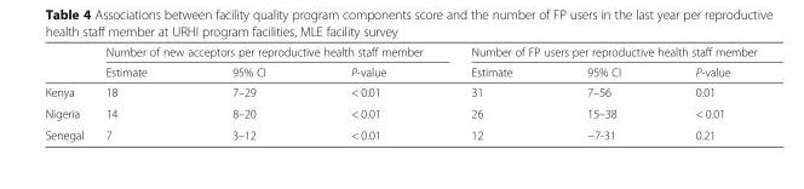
<table><thead><tr><td rowspan="2"></td><td colspan="3">Number of new acceptors per reproductive health staff member</td><td colspan="3">Number of FP users per reproductive health staff member</td></tr><tr><td>Estimate</td><td>95% CI</td><td>P-value</td><td>Estimate</td><td>95% CI</td><td>P-value</td></tr></thead><tbody><tr><td>Kenya</td><td>18</td><td>7–29</td><td>&lt; 0.01</td><td>31</td><td>7–56</td><td>0.01</td></tr><tr><td>Nigeria</td><td>14</td><td>8–20</td><td>&lt; 0.01</td><td>26</td><td>15–38</td><td>&lt; 0.01</td></tr><tr><td>Senegal</td><td>7</td><td>3–12</td><td>&lt; 0.01</td><td>12</td><td>−7-31</td><td>0.21</td></tr></tbody></table>